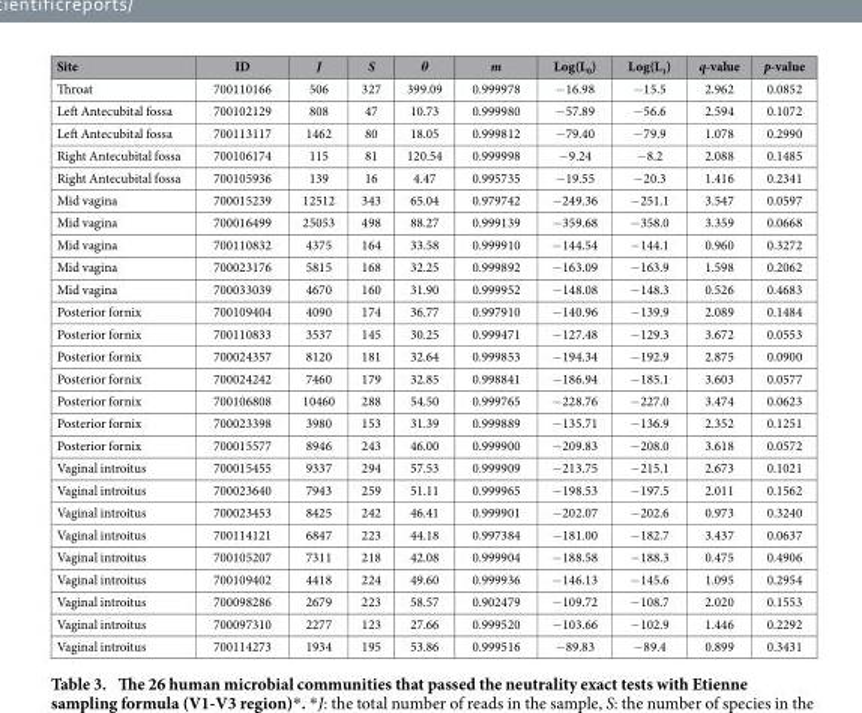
<table><thead><tr><td>Site</td><td>ID</td><td>J</td><td>S</td><td>θ</td><td>m</td><td>Log(L<sub>0</sub>)</td><td>Log(L<sub>1</sub>)</td><td>q-value</td><td>p-value</td></tr></thead><tbody><tr><td>Throat</td><td>700110166</td><td>506</td><td>327</td><td>399.09</td><td>0.999978</td><td>− 16.98</td><td>− 15.5</td><td>2.962</td><td>0.0852</td></tr><tr><td>Left Antecubital fossa</td><td>700102129</td><td>808</td><td>47</td><td>10.73</td><td>0.999980</td><td>− 57.89</td><td>− 56.6</td><td>2.594</td><td>0.1072</td></tr><tr><td>Left Antecubital fossa</td><td>700113117</td><td>1462</td><td>80</td><td>18.05</td><td>0.999812</td><td>− 79.40</td><td>− 79.9</td><td>1.078</td><td>0.2990</td></tr><tr><td>Right Antecubital fossa</td><td>700106174</td><td>115</td><td>81</td><td>120.54</td><td>0.999998</td><td>− 9.24</td><td>− 8.2</td><td>2.088</td><td>0.1485</td></tr><tr><td>Right Antecubital fossa</td><td>700105936</td><td>139</td><td>16</td><td>4.47</td><td>0.995735</td><td>− 19.55</td><td>− 20.3</td><td>1.416</td><td>0.2341</td></tr><tr><td>Mid vagina</td><td>700015239</td><td>12512</td><td>343</td><td>65.04</td><td>0.979742</td><td>− 249.36</td><td>− 251.1</td><td>3.547</td><td>0.0597</td></tr><tr><td>Mid vagina</td><td>700016499</td><td>25053</td><td>498</td><td>88.27</td><td>0.999139</td><td>− 359.68</td><td>− 358.0</td><td>3.359</td><td>0.0668</td></tr><tr><td>Mid vagina</td><td>700110832</td><td>4375</td><td>164</td><td>33.58</td><td>0.999910</td><td>− 144.54</td><td>− 144.1</td><td>0.960</td><td>0.3272</td></tr><tr><td>Mid vagina</td><td>700023176</td><td>5815</td><td>168</td><td>32.25</td><td>0.999892</td><td>− 163.09</td><td>− 163.9</td><td>1.598</td><td>0.2062</td></tr><tr><td>Mid vagina</td><td>700033039</td><td>4670</td><td>160</td><td>31.90</td><td>0.999952</td><td>− 148.08</td><td>− 148.3</td><td>0.526</td><td>0.4683</td></tr><tr><td>Posterior fornix</td><td>700109404</td><td>4090</td><td>174</td><td>36.77</td><td>0.997910</td><td>− 140.96</td><td>− 139.9</td><td>2.089</td><td>0.1484</td></tr><tr><td>Posterior fornix</td><td>700110833</td><td>3537</td><td>145</td><td>30.25</td><td>0.999471</td><td>− 127.48</td><td>− 129.3</td><td>3.672</td><td>0.0553</td></tr><tr><td>Posterior fornix</td><td>700024357</td><td>8120</td><td>181</td><td>32.64</td><td>0.999853</td><td>− 194.34</td><td>− 192.9</td><td>2.875</td><td>0.0900</td></tr><tr><td>Posterior fornix</td><td>700024242</td><td>7460</td><td>179</td><td>32.85</td><td>0.998841</td><td>− 186.94</td><td>− 185.1</td><td>3.603</td><td>0.0577</td></tr><tr><td>Posterior fornix</td><td>700106808</td><td>10460</td><td>288</td><td>54.50</td><td>0.999765</td><td>− 228.76</td><td>− 227.0</td><td>3.474</td><td>0.0623</td></tr><tr><td>Posterior fornix</td><td>700023398</td><td>3980</td><td>153</td><td>31.39</td><td>0.999889</td><td>− 135.71</td><td>− 136.9</td><td>2.352</td><td>0.1251</td></tr><tr><td>Posterior fornix</td><td>700015577</td><td>8946</td><td>243</td><td>46.00</td><td>0.999900</td><td>− 209.83</td><td>− 208.0</td><td>3.618</td><td>0.0572</td></tr><tr><td>Vaginal introitus</td><td>700015455</td><td>9337</td><td>294</td><td>57.53</td><td>0.999909</td><td>− 213.75</td><td>− 215.1</td><td>2.673</td><td>0.1021</td></tr><tr><td>Vaginal introitus</td><td>700023640</td><td>7943</td><td>259</td><td>51.11</td><td>0.999965</td><td>− 198.53</td><td>− 197.5</td><td>2.011</td><td>0.1562</td></tr><tr><td>Vaginal introitus</td><td>700023453</td><td>8425</td><td>242</td><td>46.41</td><td>0.999901</td><td>− 202.07</td><td>− 202.6</td><td>0.973</td><td>0.3240</td></tr><tr><td>Vaginal introitus</td><td>700114121</td><td>6847</td><td>223</td><td>44.18</td><td>0.997384</td><td>− 181.00</td><td>− 182.7</td><td>3.437</td><td>0.0637</td></tr><tr><td>Vaginal introitus</td><td>700105207</td><td>7311</td><td>218</td><td>42.08</td><td>0.999904</td><td>− 188.58</td><td>− 188.3</td><td>0.475</td><td>0.4906</td></tr><tr><td>Vaginal introitus</td><td>700109402</td><td>4418</td><td>224</td><td>49.60</td><td>0.999936</td><td>− 146.13</td><td>− 145.6</td><td>1.095</td><td>0.2954</td></tr><tr><td>Vaginal introitus</td><td>700098286</td><td>2679</td><td>223</td><td>58.57</td><td>0.902479</td><td>− 109.72</td><td>− 108.7</td><td>2.020</td><td>0.1553</td></tr><tr><td>Vaginal introitus</td><td>700097310</td><td>2277</td><td>123</td><td>27.66</td><td>0.999520</td><td>− 103.66</td><td>− 102.9</td><td>1.446</td><td>0.2292</td></tr><tr><td>Vaginal introitus</td><td>700114273</td><td>1934</td><td>195</td><td>53.86</td><td>0.999516</td><td>− 89.83</td><td>− 89.4</td><td>0.899</td><td>0.3431</td></tr></tbody></table>